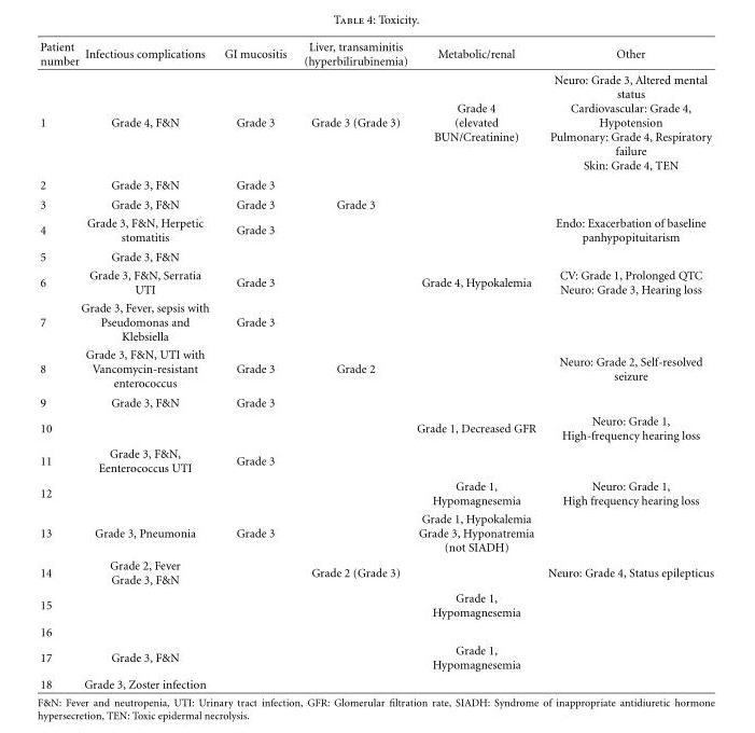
<table><thead><tr><td>Patient number</td><td>Infectious complications</td><td>GI mucositis</td><td>Liver, transaminitis (hyperbilirubinemia)</td><td>Metabolic/renal</td><td>Other</td></tr></thead><tbody><tr><td>1</td><td>Grade 4, F&amp;N</td><td>Grade 3</td><td>Grade 3 (Grade 3)</td><td>Grade 4 (elevated BUN/Creatinine)</td><td>Neuro: Grade 3, Altered mental status Cardiovascular: Grade 4, Hypotension Pulmonary: Grade 4, Respiratory failure Skin: Grade 4, TEN</td></tr><tr><td>2</td><td>Grade 3, F&amp;N</td><td>Grade 3</td><td></td><td></td><td></td></tr><tr><td>3</td><td>Grade 3, F&amp;N</td><td>Grade 3</td><td>Grade 3</td><td></td><td></td></tr><tr><td>4</td><td>Grade 3, F&amp;N, Herpetic stomatitis</td><td>Grade 3</td><td></td><td></td><td>Endo: Exacerbation of baseline panhypopituitarism</td></tr><tr><td>5</td><td>Grade 3, F&amp;N</td><td></td><td></td><td></td><td></td></tr><tr><td>6</td><td>Grade 3, F&amp;N, Serratia UTI</td><td>Grade 3</td><td></td><td>Grade 4, Hypokalemia</td><td>CV: Grade 1, Prolonged QTC Neuro: Grade 3, Hearing loss</td></tr><tr><td>7</td><td>Grade 3, Fever, sepsis with Pseudomonas and Klebsiella</td><td>Grade 3</td><td></td><td></td><td></td></tr><tr><td>8</td><td>Grade 3, F&amp;N, UTI with Vancomycin-resistant enterococcus</td><td>Grade 3</td><td>Grade 2</td><td></td><td>Neuro: Grade 2, Self-resolved seizure</td></tr><tr><td>9</td><td>Grade 3, F&amp;N</td><td>Grade 3</td><td></td><td></td><td></td></tr><tr><td>10</td><td></td><td></td><td></td><td>Grade 1, Decreased GFR</td><td>Neuro: Grade 1, High-frequency hearing loss</td></tr><tr><td>11</td><td>Grade 3, F&amp;N, Eenterococcus UTI</td><td>Grade 3</td><td></td><td></td><td></td></tr><tr><td>12</td><td></td><td></td><td></td><td>Grade 1, Hypomagnesemia</td><td>Neuro: Grade 1, High frequency hearing loss</td></tr><tr><td>13</td><td>Grade 3, Pneumonia</td><td>Grade 3</td><td></td><td>Grade 1, Hypokalemia Grade 3, Hyponatremia (not SIADH)</td><td></td></tr><tr><td>14</td><td>Grade 2, Fever Grade 3, F&amp;N</td><td></td><td>Grade 2 (Grade 3)</td><td></td><td>Neuro: Grade 4, Status epilepticus</td></tr><tr><td>15</td><td></td><td></td><td></td><td>Grade 1, Hypomagnesemia</td><td></td></tr><tr><td colspan="6">16</td></tr><tr><td>17</td><td>Grade 3, F&amp;N</td><td></td><td></td><td>Grade 1, Hypomagnesemia</td><td></td></tr><tr><td>18</td><td>Grade 3, Zoster infection</td><td></td><td></td><td></td><td></td></tr></tbody></table>